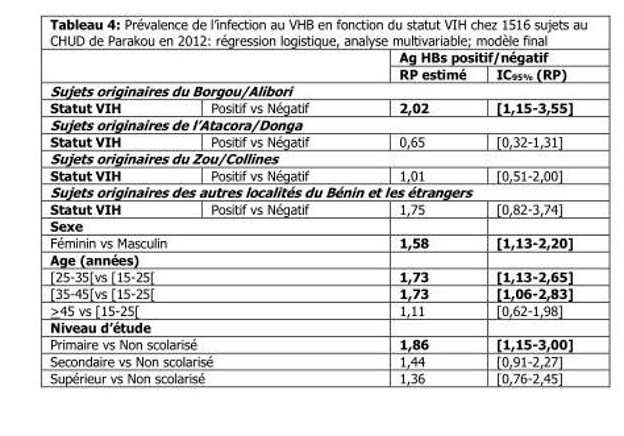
<table><thead><tr><td rowspan="2"></td><td rowspan="2"></td><td colspan="2">Ag HBs positif/négatif</td></tr><tr><td>RP estimé</td><td>IC<sub>95%</sub> (RP)</td></tr></thead><tbody><tr><td colspan="4">Sujets originaires du Borgou/Alibori</td></tr><tr><td>Statut VIH</td><td>Positif vs Négatif</td><td>2,02</td><td>[1,15-3,55]</td></tr><tr><td colspan="4">Sujets originaires de l’Atacora/Donga</td></tr><tr><td>Statut VIH</td><td>Positif vs Négatif</td><td>0,65</td><td>[0,32-1,31]</td></tr><tr><td colspan="4">Sujets originaires du Zou/Collines</td></tr><tr><td>Statut VIH</td><td>Positif vs Négatif</td><td>1,01</td><td>[0,51-2,00]</td></tr><tr><td colspan="4">Sujets originaires des autres localités du Bénin et les étrangers</td></tr><tr><td>Statut VIH</td><td>Positif vs Négatif</td><td>1,75</td><td>[0,82-3,74]</td></tr><tr><td colspan="4">Sexe</td></tr><tr><td colspan="2">Féminin vs Masculin</td><td>1,58</td><td>[1,13-2,20]</td></tr><tr><td colspan="4">Age (années)</td></tr><tr><td colspan="2">[25-35[vs [15-25[</td><td>1,73</td><td>[1,13-2,65]</td></tr><tr><td colspan="2">[35-45[vs [15-25[</td><td>1,73</td><td>[1,06-2,83]</td></tr><tr><td colspan="2">&gt;45 vs [15-25[</td><td>1,11</td><td>[0,62-1,98]</td></tr><tr><td colspan="4">Niveau d’étude</td></tr><tr><td colspan="2">Primaire vs Non scolarisé</td><td>1,86</td><td>[1,15-3,00]</td></tr><tr><td colspan="2">Secondaire vs Non scolarisé</td><td>1,44</td><td>[0,91-2,27]</td></tr><tr><td colspan="2">Supérieur vs Non scolarisé</td><td>1,36</td><td>[0,76-2,45]</td></tr></tbody></table>